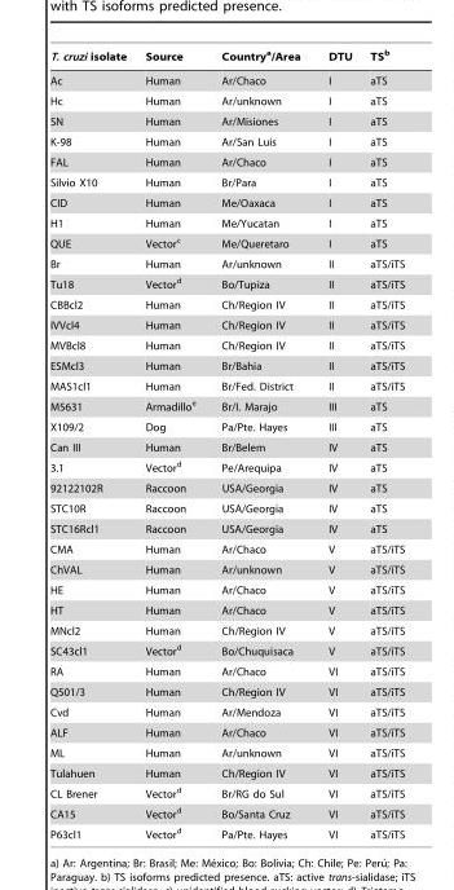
<table><thead><tr><td>T. cruzi isolate</td><td>Source</td><td>Country<sup>a</sup>/Area</td><td>DTU</td><td>TS<sup>b</sup></td></tr></thead><tbody><tr><td>Ac</td><td>Human</td><td>Ar/Chaco</td><td>I</td><td>aTS</td></tr><tr><td>Hc</td><td>Human</td><td>Ar/unknown</td><td>I</td><td>aTS</td></tr><tr><td>SN</td><td>Human</td><td>Ar/Misiones</td><td>I</td><td>aTS</td></tr><tr><td>K-98</td><td>Human</td><td>Ar/San Luis</td><td>I</td><td>aTS</td></tr><tr><td>FAL</td><td>Human</td><td>Ar/Chaco</td><td>I</td><td>aTS</td></tr><tr><td>Silvio X10</td><td>Human</td><td>Br/Para</td><td>I</td><td>aTS</td></tr><tr><td>CID</td><td>Human</td><td>Me/Oaxaca</td><td>I</td><td>aTS</td></tr><tr><td>H1</td><td>Human</td><td>Me/Yucatan</td><td>I</td><td>aTS</td></tr><tr><td>QUE</td><td>Vector<sup>c</sup></td><td>Me/Queretaro</td><td>I</td><td>aTS</td></tr><tr><td>Br</td><td>Human</td><td>Ar/unknown</td><td>II</td><td>aTS/iTS</td></tr><tr><td>Tu18</td><td>Vector<sup>d</sup></td><td>Bo/Tupiza</td><td>II</td><td>aTS/iTS</td></tr><tr><td>CBBcl2</td><td>Human</td><td>Ch/Region IV</td><td>II</td><td>aTS/iTS</td></tr><tr><td>IVVcl4</td><td>Human</td><td>Ch/Region IV</td><td>II</td><td>aTS/iTS</td></tr><tr><td>MVBcl8</td><td>Human</td><td>Ch/Region IV</td><td>II</td><td>aTS/iTS</td></tr><tr><td>ESMcl3</td><td>Human</td><td>Br/Bahia</td><td>II</td><td>aTS/iTS</td></tr><tr><td>MAS1cl1</td><td>Human</td><td>Br/Fed. District</td><td>II</td><td>aTS/iTS</td></tr><tr><td>M5631</td><td>Armadillo<sup>e</sup></td><td>Br/I. Marajo</td><td>III</td><td>aTS</td></tr><tr><td>X109/2</td><td>Dog</td><td>Pa/Pte. Hayes</td><td>III</td><td>aTS</td></tr><tr><td>Can III</td><td>Human</td><td>Br/Belem</td><td>IV</td><td>aTS</td></tr><tr><td>3.1</td><td>Vector<sup>d</sup></td><td>Pe/Arequipa</td><td>IV</td><td>aTS</td></tr><tr><td>92122102R</td><td>Raccoon</td><td>USA/Georgia</td><td>IV</td><td>aTS</td></tr><tr><td>STC10R</td><td>Raccoon</td><td>USA/Georgia</td><td>IV</td><td>aTS</td></tr><tr><td>STC16Rcl1</td><td>Raccoon</td><td>USA/Georgia</td><td>IV</td><td>aTS</td></tr><tr><td>CMA</td><td>Human</td><td>Ar/Chaco</td><td>V</td><td>aTS/iTS</td></tr><tr><td>ChVAL</td><td>Human</td><td>Ar/unknown</td><td>V</td><td>aTS/iTS</td></tr><tr><td>HE</td><td>Human</td><td>Ar/Chaco</td><td>V</td><td>aTS/iTS</td></tr><tr><td>HT</td><td>Human</td><td>Ar/Chaco</td><td>V</td><td>aTS/iTS</td></tr><tr><td>MNcl2</td><td>Human</td><td>Ch/Region IV</td><td>V</td><td>aTS/iTS</td></tr><tr><td>SC43cl1</td><td>Vector<sup>d</sup></td><td>Bo/Chuquisaca</td><td>V</td><td>aTS/iTS</td></tr><tr><td>RA</td><td>Human</td><td>Ar/Chaco</td><td>VI</td><td>aTS/iTS</td></tr><tr><td>Q501/3</td><td>Human</td><td>Ch/Region IV</td><td>VI</td><td>aTS/iTS</td></tr><tr><td>Cvd</td><td>Human</td><td>Ar/Mendoza</td><td>VI</td><td>aTS/iTS</td></tr><tr><td>ALF</td><td>Human</td><td>Ar/Chaco</td><td>VI</td><td>aTS/iTS</td></tr><tr><td>ML</td><td>Human</td><td>Ar/unknown</td><td>VI</td><td>aTS/iTS</td></tr><tr><td>Tulahuen</td><td>Human</td><td>Ch/Region IV</td><td>VI</td><td>aTS/iTS</td></tr><tr><td>CL Brener</td><td>Vector<sup>d</sup></td><td>Br/RG do Sul</td><td>VI</td><td>aTS/iTS</td></tr><tr><td>CA15</td><td>Vector<sup>d</sup></td><td>Bo/Santa Cruz</td><td>VI</td><td>aTS/iTS</td></tr><tr><td>P63cl1</td><td>Vector<sup>d</sup></td><td>Pa/Pte. Hayes</td><td>VI</td><td>aTS/iTS</td></tr></tbody></table>